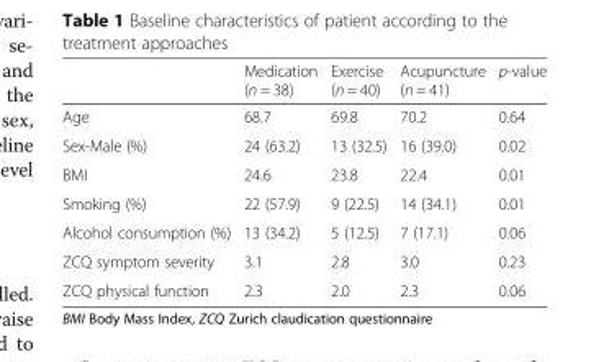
<table><thead><tr><td></td><td>Medication (n = 38)</td><td>Exercise (n = 40)</td><td>Acupuncture (n = 41)</td><td>p-value</td></tr></thead><tbody><tr><td>Age</td><td>68.7</td><td>69.8</td><td>70.2</td><td>0.64</td></tr><tr><td>Sex-Male (%)</td><td>24 (63.2)</td><td>13 (32.5)</td><td>16 (39.0)</td><td>0.02</td></tr><tr><td>BMI</td><td>24.6</td><td>23.8</td><td>22.4</td><td>0.01</td></tr><tr><td>Smoking (%)</td><td>22 (57.9)</td><td>9 (22.5)</td><td>14 (34.1)</td><td>0.01</td></tr><tr><td>Alcohol consumption (%)</td><td>13 (34.2)</td><td>5 (12.5)</td><td>7 (17.1)</td><td>0.06</td></tr><tr><td>ZCQ symptom severity</td><td>3.1</td><td>2.8</td><td>3.0</td><td>0.23</td></tr><tr><td>ZCQ physical function</td><td>2.3</td><td>2.0</td><td>2.3</td><td>0.06</td></tr></tbody></table>